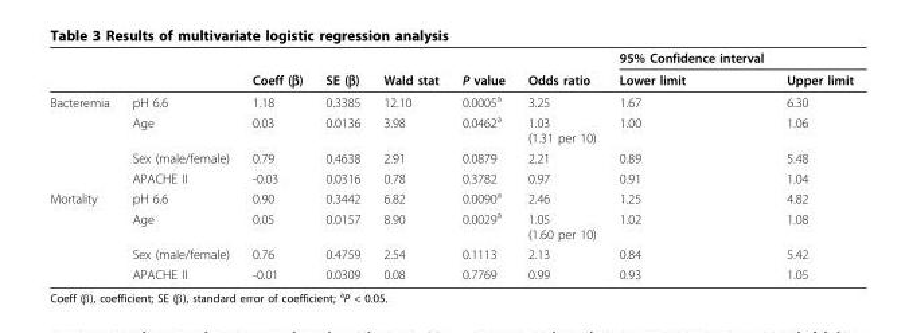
<table><thead><tr><td rowspan="2"></td><td rowspan="2"></td><td rowspan="2">Coeff (β)</td><td rowspan="2">SE (β)</td><td rowspan="2">Wald stat</td><td rowspan="2">P value</td><td rowspan="2">Odds ratio</td><td rowspan="2">95% Confidence interval Lower limit</td><td rowspan="2">Upper limit</td></tr><tr></tr></thead><tbody><tr><td rowspan="4">Bacteremia</td><td>pH 6.6</td><td>1.18</td><td>0.3385</td><td>12.10</td><td>0.0005<sup>a</sup></td><td>3.25</td><td>1.67</td><td>6.30</td></tr><tr><td>Age</td><td>0.03</td><td>0.0136</td><td>3.98</td><td>0.0462<sup>a</sup></td><td>1.03 (1.31 per 10)</td><td>1.00</td><td>1.06</td></tr><tr><td>Sex (male/female)</td><td>0.79</td><td>0.4638</td><td>2.91</td><td>0.0879</td><td>2.21</td><td>0.89</td><td>5.48</td></tr><tr><td>APACHE II</td><td>-0.03</td><td>0.0316</td><td>0.78</td><td>0.3782</td><td>0.97</td><td>0.91</td><td>1.04</td></tr><tr><td rowspan="4">Mortality</td><td>pH 6.6</td><td>0.90</td><td>0.3442</td><td>6.82</td><td>0.0090<sup>a</sup></td><td>2.46</td><td>1.25</td><td>4.82</td></tr><tr><td>Age</td><td>0.05</td><td>0.0157</td><td>8.90</td><td>0.0029<sup>a</sup></td><td>1.05 (1.60 per 10)</td><td>1.02</td><td>1.08</td></tr><tr><td>Sex (male/female)</td><td>0.76</td><td>0.4759</td><td>2.54</td><td>0.1113</td><td>2.13</td><td>0.84</td><td>5.42</td></tr><tr><td>APACHE II</td><td>-0.01</td><td>0.0309</td><td>0.08</td><td>0.7769</td><td>0.99</td><td>0.93</td><td>1.05</td></tr></tbody></table>